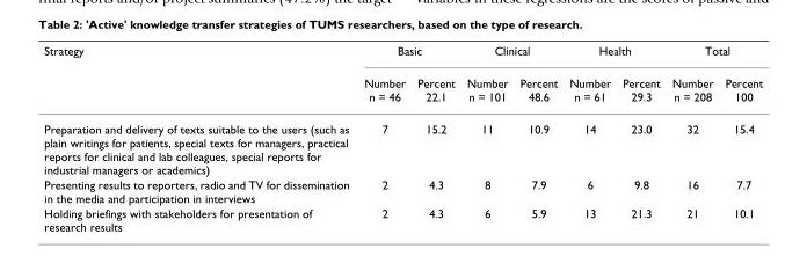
<table><thead><tr><td rowspan="2">Strategy</td><td colspan="2">Basic</td><td colspan="2">Clinical</td><td colspan="2">Health</td><td colspan="2">Total</td></tr><tr><td>Number n = 46</td><td>Percent 22.1</td><td>Number n = 101</td><td>Percent 48.6</td><td>Number n = 61</td><td>Percent 29.3</td><td>Number n = 208</td><td>Percent 100</td></tr></thead><tbody><tr><td>Preparation and delivery of texts suitable to the users (such as plain writings for patients, special texts for managers, practical reports for clinical and lab colleagues, special reports for industrial managers or academics)</td><td>7</td><td>15.2</td><td>11</td><td>10.9</td><td>14</td><td>23.0</td><td>32</td><td>15.4</td></tr><tr><td>Presenting results to reporters, radio and TV for dissemination in the media and participation in interviews</td><td>2</td><td>4.3</td><td>8</td><td>7.9</td><td>6</td><td>9.8</td><td>16</td><td>7.7</td></tr><tr><td>Holding briefings with stakeholders for presentation of research results</td><td>2</td><td>4.3</td><td>6</td><td>5.9</td><td>13</td><td>21.3</td><td>21</td><td>10.1</td></tr></tbody></table>